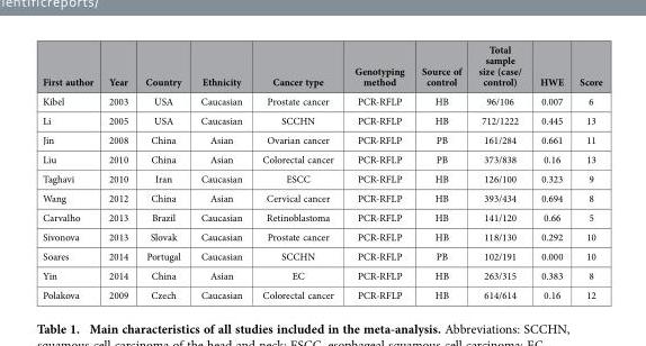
<table><thead><tr><td>First author</td><td>Year</td><td>Country</td><td>Ethnicity</td><td>Cancer type</td><td>Genotyping method</td><td>Source of control</td><td>Total sample size (case/ control)</td><td>HWE</td><td>Score</td></tr></thead><tbody><tr><td>Kibel</td><td>2003</td><td>USA</td><td>Caucasian</td><td>Prostate cancer</td><td>PCR-RFLP</td><td>HB</td><td>96/106</td><td>0.007</td><td>6</td></tr><tr><td>Li</td><td>2005</td><td>USA</td><td>Caucasian</td><td>SCCHN</td><td>PCR-RFLP</td><td>HB</td><td>712/1222</td><td>0.445</td><td>13</td></tr><tr><td>Jin</td><td>2008</td><td>China</td><td>Asian</td><td>Ovarian cancer</td><td>PCR-RFLP</td><td>PB</td><td>161/284</td><td>0.661</td><td>11</td></tr><tr><td>Liu</td><td>2010</td><td>China</td><td>Asian</td><td>Colorectal cancer</td><td>PCR-RFLP</td><td>PB</td><td>373/838</td><td>0.16</td><td>13</td></tr><tr><td>Taghavi</td><td>2010</td><td>Iran</td><td>Caucasian</td><td>ESCC</td><td>PCR-RFLP</td><td>HB</td><td>126/100</td><td>0.323</td><td>9</td></tr><tr><td>Wang</td><td>2012</td><td>China</td><td>Asian</td><td>Cervical cancer</td><td>PCR-RFLP</td><td>HB</td><td>393/434</td><td>0.694</td><td>8</td></tr><tr><td>Carvalho</td><td>2013</td><td>Brazil</td><td>Caucasian</td><td>Retinoblastoma</td><td>PCR-RFLP</td><td>HB</td><td>141/120</td><td>0.66</td><td>5</td></tr><tr><td>Sivonova</td><td>2013</td><td>Slovak</td><td>Caucasian</td><td>Prostate cancer</td><td>PCR-RFLP</td><td>HB</td><td>118/130</td><td>0.292</td><td>10</td></tr><tr><td>Soares</td><td>2014</td><td>Portugal</td><td>Caucasian</td><td>SCCHN</td><td>PCR-RFLP</td><td>PB</td><td>102/191</td><td>0.000</td><td>10</td></tr><tr><td>Yin</td><td>2014</td><td>China</td><td>Asian</td><td>EC</td><td>PCR-RFLP</td><td>HB</td><td>263/315</td><td>0.383</td><td>8</td></tr><tr><td>Polakova</td><td>2009</td><td>Czech</td><td>Caucasian</td><td>Colorectal cancer</td><td>PCR-RFLP</td><td>HB</td><td>614/614</td><td>0.16</td><td>12</td></tr></tbody></table>